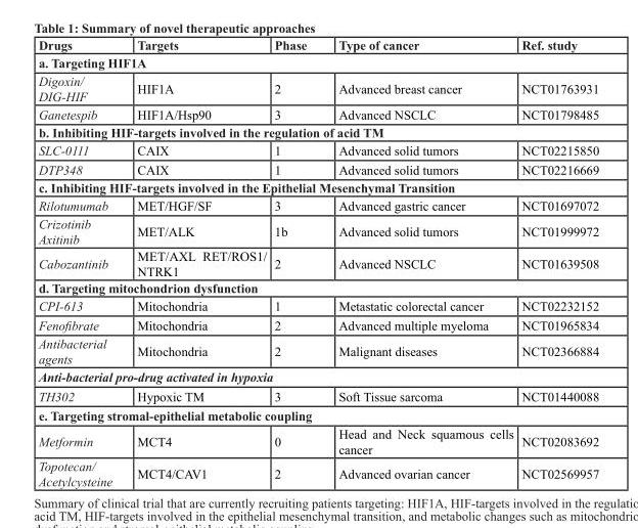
<table><thead><tr><td>Drugs</td><td>Targets</td><td>Phase</td><td>Type of cancer</td><td>Ref. study</td></tr></thead><tbody><tr><td colspan="5">a. Targeting HIF1A</td></tr><tr><td>Digoxin/ DIG-HIF</td><td>HIF1A</td><td>2</td><td>Advanced breast cancer</td><td>NCT01763931</td></tr><tr><td>Ganetespib</td><td>HIF1A/Hsp90</td><td>3</td><td>Advanced NSCLC</td><td>NCT01798485</td></tr><tr><td colspan="5">b. Inhibiting HIF-targets involved in the regulation of acid TM</td></tr><tr><td>SLC-0111</td><td>CAIX</td><td>1</td><td>Advanced solid tumors</td><td>NCT02215850</td></tr><tr><td>DTP348</td><td>CAIX</td><td>1</td><td>Advanced solid tumors</td><td>NCT02216669</td></tr><tr><td colspan="5">c. Inhibiting HIF-targets involved in the Epithelial Mesenchymal Transition</td></tr><tr><td>Rilotumumab</td><td>MET/HGF/SF</td><td>3</td><td>Advanced gastric cancer</td><td>NCT01697072</td></tr><tr><td>Crizotinib Axitinib</td><td>MET/ALK</td><td>1b</td><td>Advanced solid tumors</td><td>NCT01999972</td></tr><tr><td>Cabozantinib</td><td>MET/AXL RET/ROS1/ NTRK1</td><td>2</td><td>Advanced NSCLC</td><td>NCT01639508</td></tr><tr><td colspan="5">d. Targeting mitochondrion dysfunction</td></tr><tr><td>CPI-613</td><td>Mitochondria</td><td>1</td><td>Metastatic colorectal cancer</td><td>NCT02232152</td></tr><tr><td>Fenofibrate</td><td>Mitochondria</td><td>2</td><td>Advanced multiple myeloma</td><td>NCT01965834</td></tr><tr><td>Antibacterial agents</td><td>Mitochondria</td><td>2</td><td>Malignant diseases</td><td>NCT02366884</td></tr><tr><td colspan="5">Anti-bacterial pro-drug activated in hypoxia</td></tr><tr><td>TH302</td><td>Hypoxic TM</td><td>3</td><td>Soft Tissue sarcoma</td><td>NCT01440088</td></tr><tr><td colspan="5">e. Targeting stromal-epithelial metabolic coupling</td></tr><tr><td>Metformin</td><td>MCT4</td><td>0</td><td>Head and Neck squamous cells cancer</td><td>NCT02083692</td></tr><tr><td>Topotecan/ Acetylcysteine</td><td>MCT4/CAV1</td><td>2</td><td>Advanced ovarian cancer</td><td>NCT02569957</td></tr></tbody></table>